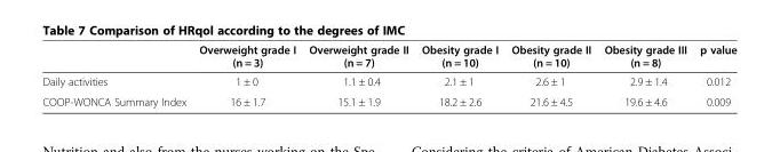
<table><thead><tr><td></td><td>Overweight grade I (n = 3)</td><td>Overweight grade II (n = 7)</td><td>Obesity grade I (n = 10)</td><td>Obesity grade II (n = 10)</td><td>Obesity grade III (n = 8)</td><td>p value</td></tr></thead><tbody><tr><td>Daily activities</td><td>1 ± 0</td><td>1.1 ± 0.4</td><td>2.1 ± 1</td><td>2.6 ± 1</td><td>2.9 ± 1.4</td><td>0.012</td></tr><tr><td>COOP-WONCA Summary Index</td><td>16 ± 1.7</td><td>15.1 ± 1.9</td><td>18.2 ± 2.6</td><td>21.6 ± 4.5</td><td>19.6 ± 4.6</td><td>0.009</td></tr></tbody></table>